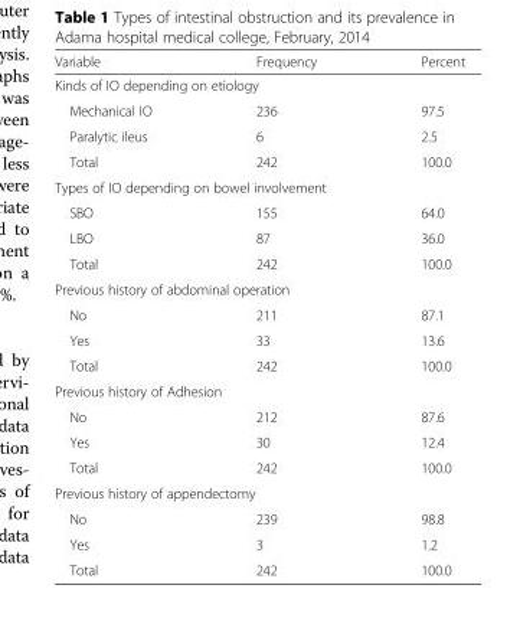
<table><thead><tr><td>Variable</td><td>Frequency</td><td>Percent</td></tr></thead><tbody><tr><td colspan="3">Kinds of IO depending on etiology</td></tr><tr><td>Mechanical IO</td><td>236</td><td>97.5</td></tr><tr><td>Paralytic ileus</td><td>6</td><td>2.5</td></tr><tr><td>Total</td><td>242</td><td>100.0</td></tr><tr><td colspan="3">Types of IO depending on bowel involvement</td></tr><tr><td>SBO</td><td>155</td><td>64.0</td></tr><tr><td>LBO</td><td>87</td><td>36.0</td></tr><tr><td>Total</td><td>242</td><td>100.0</td></tr><tr><td colspan="3">Previous history of abdominal operation</td></tr><tr><td>No</td><td>211</td><td>87.1</td></tr><tr><td>Yes</td><td>33</td><td>13.6</td></tr><tr><td>Total</td><td>242</td><td>100.0</td></tr><tr><td colspan="3">Previous history of Adhesion</td></tr><tr><td>No</td><td>212</td><td>87.6</td></tr><tr><td>Yes</td><td>30</td><td>12.4</td></tr><tr><td>Total</td><td>242</td><td>100.0</td></tr><tr><td colspan="3">Previous history of appendectomy</td></tr><tr><td>No</td><td>239</td><td>98.8</td></tr><tr><td>Yes</td><td>3</td><td>1.2</td></tr><tr><td>Total</td><td>242</td><td>100.0</td></tr></tbody></table>